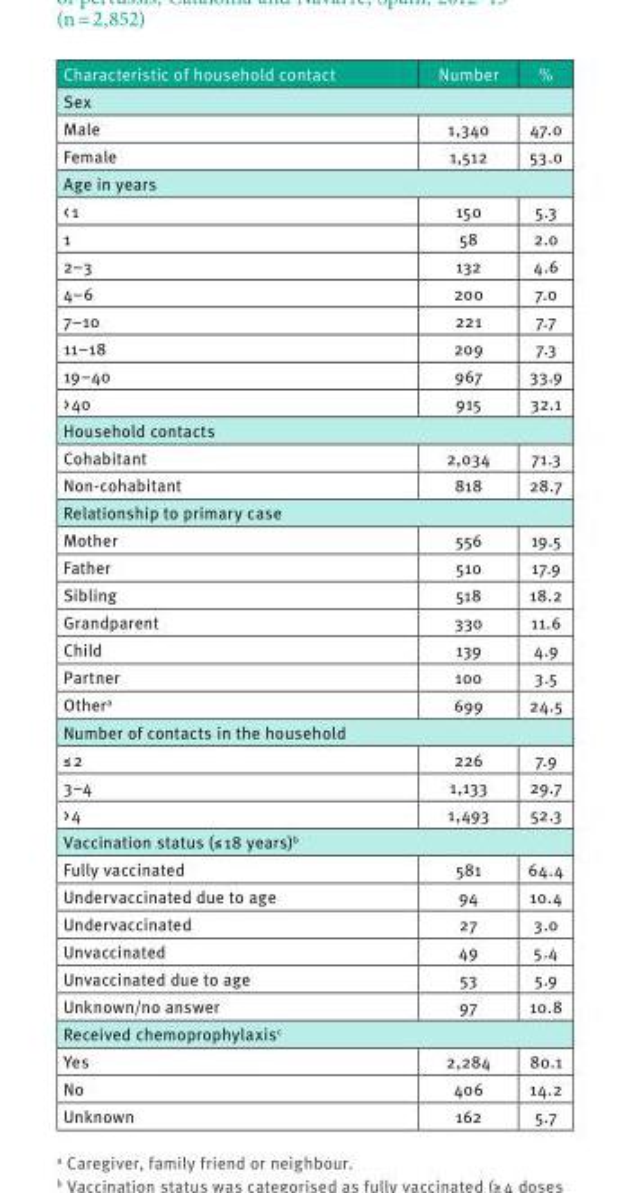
<table><thead><tr><td>Characteristic of household contact</td><td>Number</td><td>%</td></tr></thead><tbody><tr><td colspan="3">Sex</td></tr><tr><td>Male</td><td>1,340</td><td>47.0</td></tr><tr><td>Female</td><td>1,512</td><td>53.0</td></tr><tr><td colspan="3">Age in years</td></tr><tr><td>&lt; 1</td><td>150</td><td>5.3</td></tr><tr><td>1</td><td>58</td><td>2.0</td></tr><tr><td>2–3</td><td>132</td><td>4.6</td></tr><tr><td>4–6</td><td>200</td><td>7.0</td></tr><tr><td>7–10</td><td>221</td><td>7.7</td></tr><tr><td>11–18</td><td>209</td><td>7.3</td></tr><tr><td>19–40</td><td>967</td><td>33.9</td></tr><tr><td>&gt; 40</td><td>915</td><td>32.1</td></tr><tr><td colspan="3">Household contacts</td></tr><tr><td>Cohabitant</td><td>2,034</td><td>71.3</td></tr><tr><td>Non-cohabitant</td><td>818</td><td>28.7</td></tr><tr><td colspan="3">Relationship to primary case</td></tr><tr><td>Mother</td><td>556</td><td>19.5</td></tr><tr><td>Father</td><td>510</td><td>17.9</td></tr><tr><td>Sibling</td><td>518</td><td>18.2</td></tr><tr><td>Grandparent</td><td>330</td><td>11.6</td></tr><tr><td>Child</td><td>139</td><td>4.9</td></tr><tr><td>Partner</td><td>100</td><td>3.5</td></tr><tr><td>Other<sup>a</sup></td><td>699</td><td>24.5</td></tr><tr><td colspan="3">Number of contacts in the household</td></tr><tr><td>≤ 2</td><td>226</td><td>7.9</td></tr><tr><td>3–4</td><td>1,133</td><td>29.7</td></tr><tr><td>&gt; 4</td><td>1,493</td><td>52.3</td></tr><tr><td colspan="3">Vaccination status (≤ 18 years)<sup>b</sup></td></tr><tr><td>Fully vaccinated</td><td>581</td><td>64.4</td></tr><tr><td>Undervaccinated due to age</td><td>94</td><td>10.4</td></tr><tr><td>Undervaccinated</td><td>27</td><td>3.0</td></tr><tr><td>Unvaccinated</td><td>49</td><td>5.4</td></tr><tr><td>Unvaccinated due to age</td><td>53</td><td>5.9</td></tr><tr><td>Unknown/no answer</td><td>97</td><td>10.8</td></tr><tr><td colspan="3">Received chemoprophylaxis<sup>c</sup></td></tr><tr><td>Yes</td><td>2,284</td><td>80.1</td></tr><tr><td>No</td><td>406</td><td>14.2</td></tr><tr><td>Unknown</td><td>162</td><td>5.7</td></tr></tbody></table>